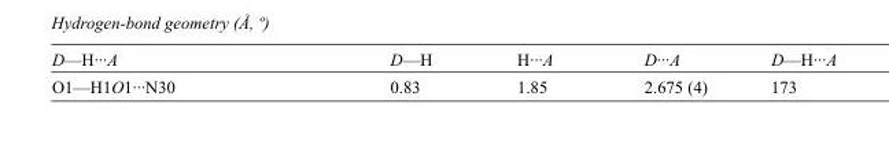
<table><tbody><tr><td>D—H···A</td><td>D—H</td><td>H···A</td><td>D···A</td><td>D—H···A</td></tr><tr><td>O1—H1O1···N30</td><td>0.83</td><td>1.85</td><td>2.675 (4)</td><td>173</td></tr></tbody></table>